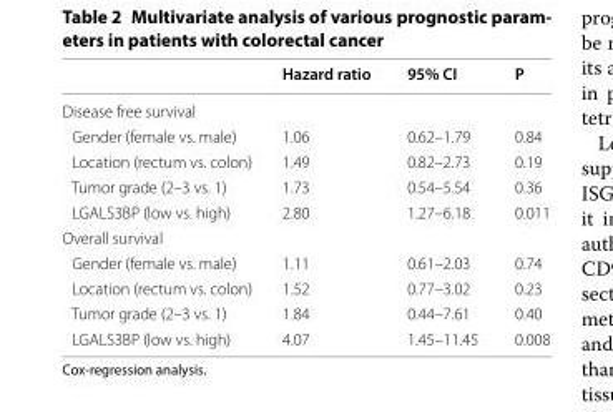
<table><thead><tr><td></td><td>Hazard ratio</td><td>95% CI</td><td>P</td></tr></thead><tbody><tr><td colspan="4">Disease free survival</td></tr><tr><td>Gender (female vs. male)</td><td>1.06</td><td>0.62–1.79</td><td>0.84</td></tr><tr><td>Location (rectum vs. colon)</td><td>1.49</td><td>0.82–2.73</td><td>0.19</td></tr><tr><td>Tumor grade (2–3 vs. 1)</td><td>1.73</td><td>0.54–5.54</td><td>0.36</td></tr><tr><td>LGALS3BP (low vs. high)</td><td>2.80</td><td>1.27–6.18</td><td>0.011</td></tr><tr><td colspan="4">Overall survival</td></tr><tr><td>Gender (female vs. male)</td><td>1.11</td><td>0.61–2.03</td><td>0.74</td></tr><tr><td>Location (rectum vs. colon)</td><td>1.52</td><td>0.77–3.02</td><td>0.23</td></tr><tr><td>Tumor grade (2–3 vs. 1)</td><td>1.84</td><td>0.44–7.61</td><td>0.40</td></tr><tr><td>LGALS3BP (low vs. high)</td><td>4.07</td><td>1.45–11.45</td><td>0.008</td></tr></tbody></table>